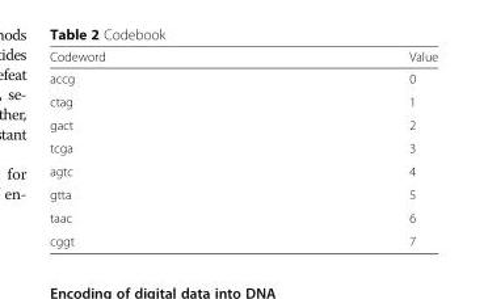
<table><thead><tr><td>Codeword</td><td>Value</td></tr></thead><tbody><tr><td>accg</td><td>0</td></tr><tr><td>ctag</td><td>1</td></tr><tr><td>gact</td><td>2</td></tr><tr><td>tcga</td><td>3</td></tr><tr><td>agtc</td><td>4</td></tr><tr><td>gtta</td><td>5</td></tr><tr><td>taac</td><td>6</td></tr><tr><td>cggt</td><td>7</td></tr></tbody></table>